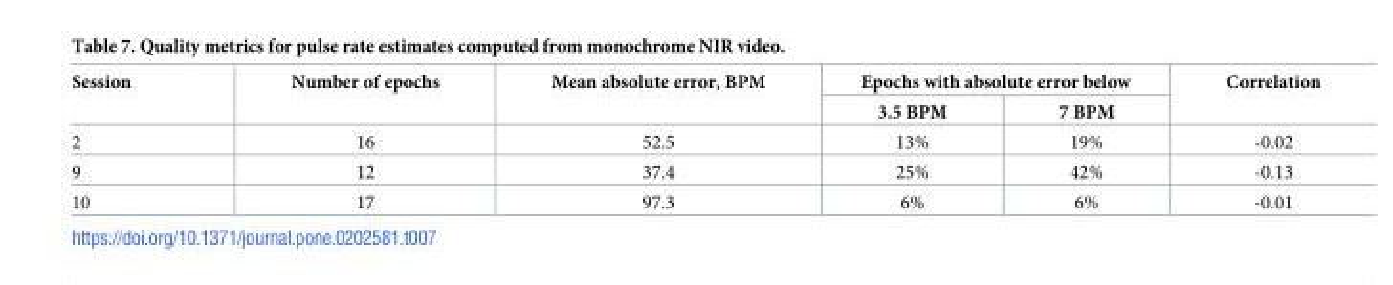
<table><thead><tr><td rowspan="2">Session</td><td rowspan="2">Number of epochs</td><td rowspan="2">Mean absolute error, BPM</td><td colspan="2">Epochs with absolute error below</td><td rowspan="2">Correlation</td></tr><tr><td>3.5 BPM</td><td>7 BPM</td></tr></thead><tbody><tr><td>2</td><td>16</td><td>52.5</td><td>13%</td><td>19%</td><td>-0.02</td></tr><tr><td>9</td><td>12</td><td>37.4</td><td>25%</td><td>42%</td><td>-0.13</td></tr><tr><td>10</td><td>17</td><td>97.3</td><td>6%</td><td>6%</td><td>-0.01</td></tr></tbody></table>